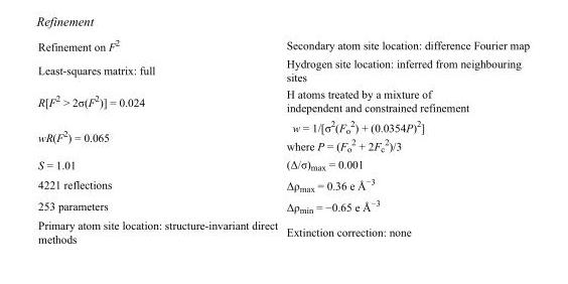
<table><tbody><tr><td>Refinement on F<sup>2</sup></td><td>Secondary atom site location: difference Fourier map</td></tr><tr><td>Least-squares matrix: full</td><td>Hydrogen site location: inferred from neighbouring sites</td></tr><tr><td>R[F<sup>2</sup> &gt; 2σ(F<sup>2</sup>)] = 0.024</td><td>H atoms treated by a mixture of independent and constrained refinement</td></tr><tr><td>wR(F<sup>2</sup>) = 0.065</td><td>w = 1/[σ<sup>2</sup>(F<sub>o</sub> <sup>2</sup>) + (0.0354P)<sup>2</sup>] where P = (F<sub>o</sub> <sup>2</sup> + 2F<sub>c</sub> <sup>2</sup>)/3</td></tr><tr><td>S = 1.01</td><td>(Δ/σ)<sub>max</sub> = 0.001</td></tr><tr><td>4221 reflections</td><td>Δρ<sub>max</sub> = 0.36 e Å<sup>−3</sup></td></tr><tr><td>253 parameters</td><td>Δρ<sub>min</sub> = −0.65 e Å<sup>−3</sup></td></tr><tr><td>Primary atom site location: structure-invariant direct methods</td><td>Extinction correction: none</td></tr></tbody></table>